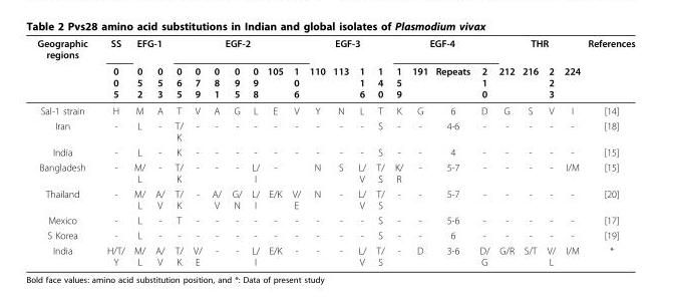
<table><thead><tr><td rowspan="2">Geographic regions</td><td rowspan="2">SS 0 0 5</td><td colspan="2">EFG-1</td><td colspan="7">EGF-2</td><td colspan="4">EGF-3</td><td colspan="4">EGF-4</td><td colspan="4">THR</td><td rowspan="2">References</td></tr><tr><td>0 5 2</td><td>0 5 3</td><td>0 6 5</td><td>0 7 9</td><td>0 8 1</td><td>0 9 5</td><td>0 9 8</td><td>105</td><td>1 0 6</td><td>110</td><td>113</td><td>1 1 6</td><td>1 4 0</td><td>1 5 9</td><td>191</td><td>Repeats</td><td>2 1 0</td><td>212</td><td>216</td><td>2 2 3</td><td>224</td></tr></thead><tbody><tr><td>Sal-1 strain</td><td>H</td><td>M</td><td>A</td><td>T</td><td>V</td><td>A</td><td>G</td><td>L</td><td>E</td><td>V</td><td>Y</td><td>N</td><td>L</td><td>T</td><td>K</td><td>G</td><td>6</td><td>D</td><td>G</td><td>S</td><td>V</td><td>I</td><td>[14]</td></tr><tr><td>Iran</td><td>-</td><td>L</td><td>-</td><td>T/ K</td><td>-</td><td>-</td><td>-</td><td>-</td><td>-</td><td>-</td><td>-</td><td>-</td><td>-</td><td>S</td><td>-</td><td>-</td><td>4-6</td><td>-</td><td>-</td><td>-</td><td>-</td><td>-</td><td>[18]</td></tr><tr><td>India</td><td>-</td><td>L</td><td>-</td><td>K</td><td>-</td><td>-</td><td>-</td><td>-</td><td>-</td><td>-</td><td>-</td><td>-</td><td>-</td><td>S</td><td>-</td><td>-</td><td>4</td><td>-</td><td>-</td><td>-</td><td>-</td><td>-</td><td>[15]</td></tr><tr><td>Bangladesh</td><td>-</td><td>M/ L</td><td>-</td><td>T/ K</td><td>-</td><td>-</td><td>-</td><td>L/ I</td><td>-</td><td></td><td>N</td><td>S</td><td>L/ V</td><td>T/ S</td><td>K/ R</td><td>-</td><td>5-7</td><td>-</td><td>-</td><td>-</td><td>-</td><td>I/M</td><td>[15]</td></tr><tr><td>Thailand</td><td>-</td><td>M/ L</td><td>A/ V</td><td>T/ K</td><td>-</td><td>A/ V</td><td>G/ N</td><td>L/ I</td><td>E/K</td><td>V/ E</td><td>N</td><td>-</td><td>L/ V</td><td>T/ S</td><td>-</td><td>-</td><td>5-7</td><td>-</td><td>-</td><td>-</td><td>-</td><td>-</td><td>[20]</td></tr><tr><td>Mexico</td><td>-</td><td>L</td><td>-</td><td>T</td><td>-</td><td>-</td><td>-</td><td>-</td><td>-</td><td>-</td><td>-</td><td>-</td><td>-</td><td>S</td><td>-</td><td>-</td><td>5-6</td><td>-</td><td>-</td><td>-</td><td>-</td><td>-</td><td>[17]</td></tr><tr><td>S Korea</td><td>-</td><td>L</td><td>-</td><td>-</td><td>-</td><td>-</td><td>-</td><td>-</td><td>-</td><td>-</td><td>-</td><td>-</td><td>-</td><td>S</td><td>-</td><td>-</td><td>6</td><td>-</td><td>-</td><td>-</td><td>-</td><td>-</td><td>[19]</td></tr><tr><td>India</td><td>H/T/ Y</td><td>M/ L</td><td>A/ V</td><td>T/ K</td><td>V/ E</td><td>-</td><td>-</td><td>L/ I</td><td>E/K</td><td>-</td><td>-</td><td>-</td><td>L/ V</td><td>T/ S</td><td>-</td><td>D</td><td>3-6</td><td>D/ G</td><td>G/R</td><td>S/T</td><td>V/ L</td><td>I/M</td><td>*</td></tr></tbody></table>